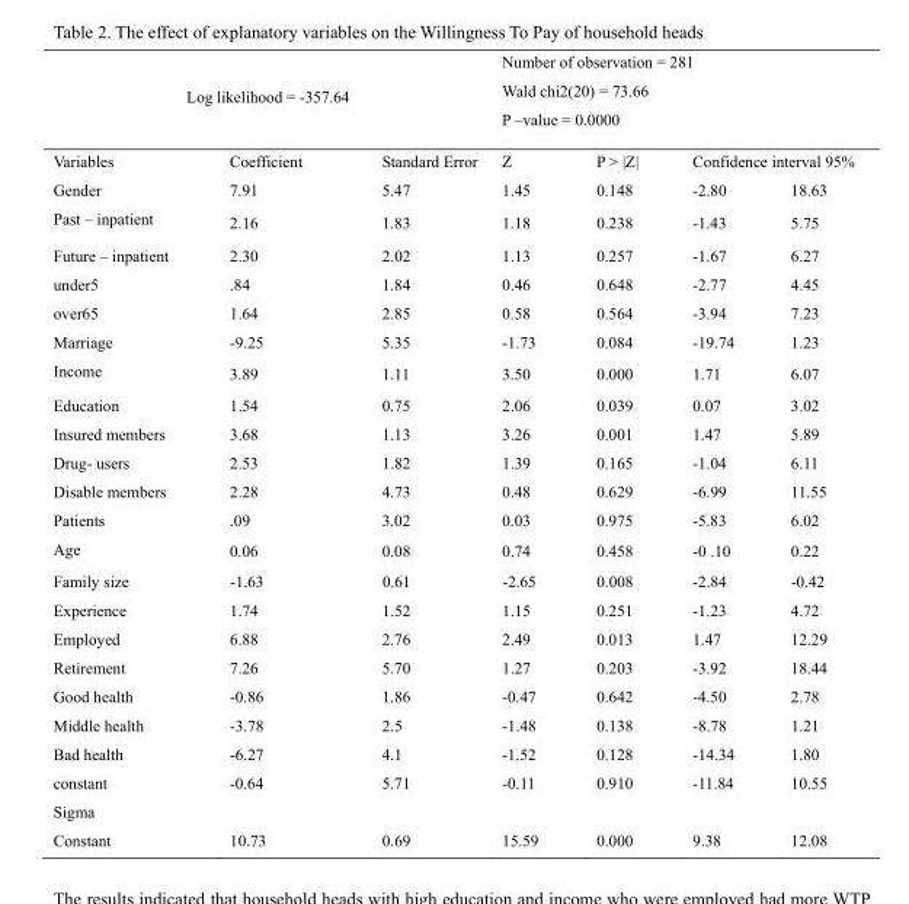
<table><thead><tr><td rowspan="3" colspan="3">Log likelihood = -357.64</td><td rowspan="3" colspan="4">Number of observation = 281 Wald chi2(20) = 73.66 P –value = 0.0000</td></tr><tr></tr><tr></tr><tr><td rowspan="2">Variables Gender</td><td rowspan="2">Coefficient 7.91</td><td rowspan="2">Standard Error 5.47</td><td rowspan="2">Z 1.45</td><td rowspan="2">P &gt; |Z| 0.148</td><td colspan="2">Confidence interval 95%</td></tr><tr><td>-2.80</td><td>18.63</td></tr></thead><tbody><tr><td>Past – inpatient</td><td>2.16</td><td>1.83</td><td>1.18</td><td>0.238</td><td>-1.43</td><td>5.75</td></tr><tr><td>Future – inpatient</td><td>2.30</td><td>2.02</td><td>1.13</td><td>0.257</td><td>-1.67</td><td>6.27</td></tr><tr><td>under5</td><td>.84</td><td>1.84</td><td>0.46</td><td>0.648</td><td>-2.77</td><td>4.45</td></tr><tr><td>over65</td><td>1.64</td><td>2.85</td><td>0.58</td><td>0.564</td><td>-3.94</td><td>7.23</td></tr><tr><td>Marriage</td><td>-9.25</td><td>5.35</td><td>-1.73</td><td>0.084</td><td>-19.74</td><td>1.23</td></tr><tr><td>Income</td><td>3.89</td><td>1.11</td><td>3.50</td><td>0.000</td><td>1.71</td><td>6.07</td></tr><tr><td>Education</td><td>1.54</td><td>0.75</td><td>2.06</td><td>0.039</td><td>0.07</td><td>3.02</td></tr><tr><td>Insured members</td><td>3.68</td><td>1.13</td><td>3.26</td><td>0.001</td><td>1.47</td><td>5.89</td></tr><tr><td>Drug- users</td><td>2.53</td><td>1.82</td><td>1.39</td><td>0.165</td><td>-1.04</td><td>6.11</td></tr><tr><td>Disable members</td><td>2.28</td><td>4.73</td><td>0.48</td><td>0.629</td><td>-6.99</td><td>11.55</td></tr><tr><td>Patients</td><td>.09</td><td>3.02</td><td>0.03</td><td>0.975</td><td>-5.83</td><td>6.02</td></tr><tr><td>Age</td><td>0.06</td><td>0.08</td><td>0.74</td><td>0.458</td><td>-0 .10</td><td>0.22</td></tr><tr><td>Family size</td><td>-1.63</td><td>0.61</td><td>-2.65</td><td>0.008</td><td>-2.84</td><td>-0.42</td></tr><tr><td>Experience</td><td>1.74</td><td>1.52</td><td>1.15</td><td>0.251</td><td>-1.23</td><td>4.72</td></tr><tr><td>Employed</td><td>6.88</td><td>2.76</td><td>2.49</td><td>0.013</td><td>1.47</td><td>12.29</td></tr><tr><td>Retirement</td><td>7.26</td><td>5.70</td><td>1.27</td><td>0.203</td><td>-3.92</td><td>18.44</td></tr><tr><td>Good health</td><td>-0.86</td><td>1.86</td><td>-0.47</td><td>0.642</td><td>-4.50</td><td>2.78</td></tr><tr><td>Middle health</td><td>-3.78</td><td>2.5</td><td>-1.48</td><td>0.138</td><td>-8.78</td><td>1.21</td></tr><tr><td>Bad health</td><td>-6.27</td><td>4.1</td><td>-1.52</td><td>0.128</td><td>-14.34</td><td>1.80</td></tr><tr><td>constant</td><td>-0.64</td><td>5.71</td><td>-0.11</td><td>0.910</td><td>-11.84</td><td>10.55</td></tr><tr><td colspan="7">Sigma</td></tr><tr><td>Constant</td><td>10.73</td><td>0.69</td><td>15.59</td><td>0.000</td><td>9.38</td><td>12.08</td></tr></tbody></table>